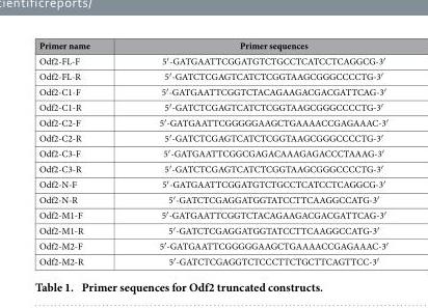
<table><thead><tr><td>Primer name</td><td>Primer sequences</td></tr></thead><tbody><tr><td>Odf2-FL-F</td><td>5′ -GATGAATTCGGATGTCTGCCTCATCCTCAGGCG-3′</td></tr><tr><td>Odf2-FL-R</td><td>5′ -GATCTCGAGTCATCTCGGTAAGCGGGCCCCTG-3′</td></tr><tr><td>Odf2-C1-F</td><td>5′ -GATGAATTCGGTCTACAGAAGACGACGATTCAG-3′</td></tr><tr><td>Odf2-C1-R</td><td>5′ -GATCTCGAGTCATCTCGGTAAGCGGGCCCCTG-3′</td></tr><tr><td>Odf2-C2-F</td><td>5′ -GATGAATTCGGGGGAAGCTGAAAACCGAGAAAC-3′</td></tr><tr><td>Odf2-C2-R</td><td>5′ -GATCTCGAGTCATCTCGGTAAGCGGGCCCCTG-3′</td></tr><tr><td>Odf2-C3-F</td><td>5′ -GATGAATTCGGCGAGACAAAGAGACCCTAAAG-3′</td></tr><tr><td>Odf2-C3-R</td><td>5′ -GATCTCGAGTCATCTCGGTAAGCGGGCCCCTG-3′</td></tr><tr><td>Odf2-N-F</td><td>5′ -GATGAATTCGGATGTCTGCCTCATCCTCAGGCG-3′</td></tr><tr><td>Odf2-N-R</td><td>5′ -GATCTCGAGGATGGTATCCTTCAAGGCCATG-3′</td></tr><tr><td>Odf2-M1-F</td><td>5′ -GATGAATTCGGTCTACAGAAGACGACGATTCAG-3′</td></tr><tr><td>Odf2-M1-R</td><td>5′ -GATCTCGAGGATGGTATCCTTCAAGGCCATG-3′</td></tr><tr><td>Odf2-M2-F</td><td>5′ -GATGAATTCGGGGGAAGCTGAAAACCGAGAAAC-3′</td></tr><tr><td>Odf2-M2-R</td><td>5′ -GATCTCGAGGTCTCCCTTCTGCTTCAGTTCC-3′</td></tr></tbody></table>